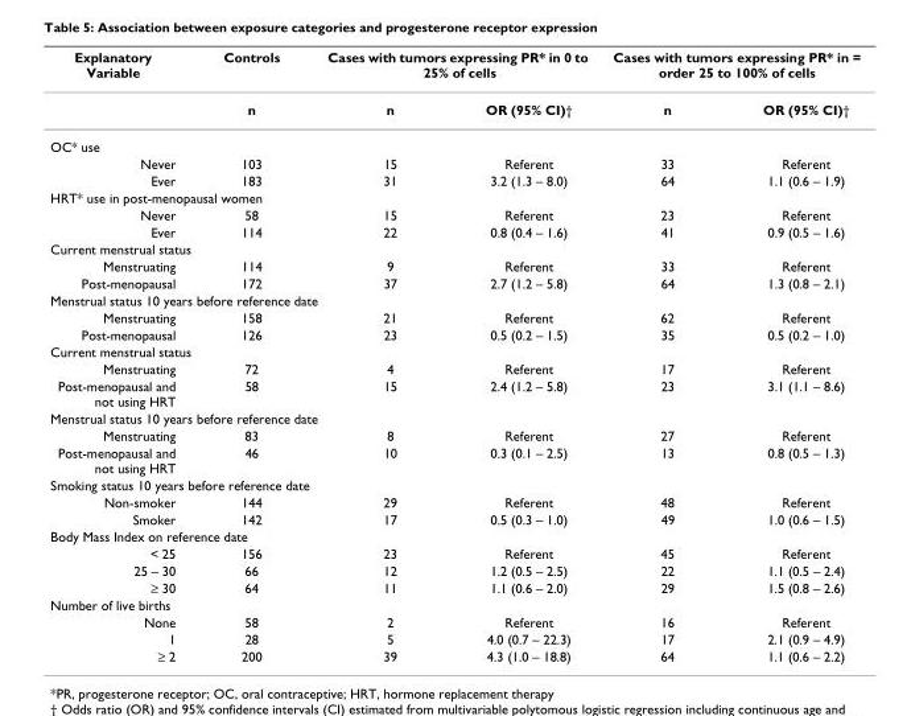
<table><thead><tr><td rowspan="2">Explanatory Variable</td><td rowspan="2">Controls n</td><td colspan="2">Cases with tumors expressing PR* in 0 to 25% of cells</td><td colspan="2">Cases with tumors expressing PR* in = order 25 to 100% of cells</td></tr><tr><td>n</td><td>OR (95% CI)†</td><td>n</td><td>OR (95% CI)†</td></tr></thead><tbody><tr><td colspan="6">OC* use</td></tr><tr><td>Never</td><td>103</td><td>15</td><td>Referent</td><td>33</td><td>Referent</td></tr><tr><td>Ever</td><td>183</td><td>31</td><td>3.2 (1.3 – 8.0)</td><td>64</td><td>1.1 (0.6 – 1.9)</td></tr><tr><td colspan="6">HRT* use in post-menopausal women</td></tr><tr><td>Never</td><td>58</td><td>15</td><td>Referent</td><td>23</td><td>Referent</td></tr><tr><td>Ever</td><td>114</td><td>22</td><td>0.8 (0.4 – 1.6)</td><td>41</td><td>0.9 (0.5 – 1.6)</td></tr><tr><td colspan="6">Current menstrual status</td></tr><tr><td>Menstruating</td><td>114</td><td>9</td><td>Referent</td><td>33</td><td>Referent</td></tr><tr><td>Post-menopausal</td><td>172</td><td>37</td><td>2.7 (1.2 – 5.8)</td><td>64</td><td>1.3 (0.8 – 2.1)</td></tr><tr><td colspan="6">Menstrual status 10 years before reference date</td></tr><tr><td>Menstruating</td><td>158</td><td>21</td><td>Referent</td><td>62</td><td>Referent</td></tr><tr><td>Post-menopausal</td><td>126</td><td>23</td><td>0.5 (0.2 – 1.5)</td><td>35</td><td>0.5 (0.2 – 1.0)</td></tr><tr><td colspan="6">Current menstrual status</td></tr><tr><td>Menstruating</td><td>72</td><td>4</td><td>Referent</td><td>17</td><td>Referent</td></tr><tr><td>Post-menopausal and not using HRT</td><td>58</td><td>15</td><td>2.4 (1.2 – 5.8)</td><td>23</td><td>3.1 (1.1 – 8.6)</td></tr><tr><td colspan="6">Menstrual status 10 years before reference date</td></tr><tr><td>Menstruating</td><td>83</td><td>8</td><td>Referent</td><td>27</td><td>Referent</td></tr><tr><td>Post-menopausal and not using HRT</td><td>46</td><td>10</td><td>0.3 (0.1 – 2.5)</td><td>13</td><td>0.8 (0.5 – 1.3)</td></tr><tr><td colspan="6">Smoking status 10 years before reference date</td></tr><tr><td>Non-smoker</td><td>144</td><td>29</td><td>Referent</td><td>48</td><td>Referent</td></tr><tr><td>Smoker</td><td>142</td><td>17</td><td>0.5 (0.3 – 1.0)</td><td>49</td><td>1.0 (0.6 – 1.5)</td></tr><tr><td colspan="6">Body Mass Index on reference date</td></tr><tr><td>&lt; 25</td><td>156</td><td>23</td><td>Referent</td><td>45</td><td>Referent</td></tr><tr><td>25 – 30</td><td>66</td><td>12</td><td>1.2 (0.5 – 2.5)</td><td>22</td><td>1.1 (0.5 – 2.4)</td></tr><tr><td>≥ 30</td><td>64</td><td>11</td><td>1.1 (0.6 – 2.0)</td><td>29</td><td>1.5 (0.8 – 2.6)</td></tr><tr><td colspan="6">Number of live births</td></tr><tr><td>None</td><td>58</td><td>2</td><td>Referent</td><td>16</td><td>Referent</td></tr><tr><td>1</td><td>28</td><td>5</td><td>4.0 (0.7 – 22.3)</td><td>17</td><td>2.1 (0.9 – 4.9)</td></tr><tr><td>≥ 2</td><td>200</td><td>39</td><td>4.3 (1.0 – 18.8)</td><td>64</td><td>1.1 (0.6 – 2.2)</td></tr></tbody></table>